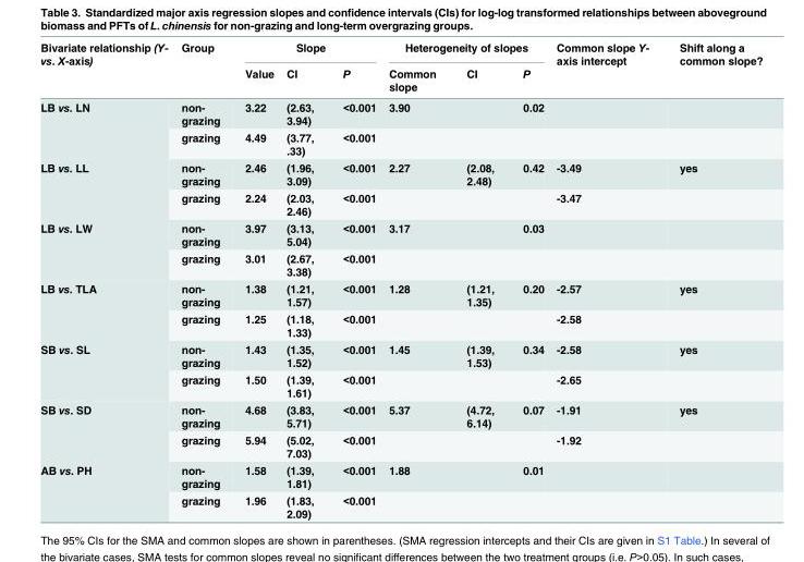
<table><thead><tr><td rowspan="2">Bivariate relationship (Y- vs. X-axis)</td><td rowspan="2">Group</td><td colspan="3">Slope</td><td colspan="3">Heterogeneity of slopes</td><td rowspan="2">Common slope Y- axis intercept</td><td rowspan="2">Shift along a common slope?</td></tr><tr><td>Value</td><td>CI</td><td>P</td><td>Common slope</td><td>CI</td><td>P</td></tr></thead><tbody><tr><td rowspan="2">LB vs. LN</td><td>non- grazing</td><td>3.22</td><td>(2.63, 3.94)</td><td>&lt;0.001</td><td>3.90</td><td></td><td>0.02</td><td></td><td></td></tr><tr><td>grazing</td><td>4.49</td><td>(3.77, .33)</td><td>&lt;0.001</td><td></td><td></td><td></td><td></td><td></td></tr><tr><td rowspan="2">LB vs. LL</td><td>non- grazing</td><td>2.46</td><td>(1.96, 3.09)</td><td>&lt;0.001</td><td>2.27</td><td>(2.08, 2.48)</td><td>0.42</td><td>-3.49</td><td>yes</td></tr><tr><td>grazing</td><td>2.24</td><td>(2.03, 2.46)</td><td>&lt;0.001</td><td></td><td></td><td></td><td>-3.47</td><td></td></tr><tr><td rowspan="2">LB vs. LW</td><td>non- grazing</td><td>3.97</td><td>(3.13, 5.04)</td><td>&lt;0.001</td><td>3.17</td><td></td><td>0.03</td><td></td><td></td></tr><tr><td>grazing</td><td>3.01</td><td>(2.67, 3.38)</td><td>&lt;0.001</td><td></td><td></td><td></td><td></td><td></td></tr><tr><td rowspan="2">LB vs. TLA</td><td>non- grazing</td><td>1.38</td><td>(1.21, 1.57)</td><td>&lt;0.001</td><td>1.28</td><td>(1.21, 1.35)</td><td>0.20</td><td>-2.57</td><td>yes</td></tr><tr><td>grazing</td><td>1.25</td><td>(1.18, 1.33)</td><td>&lt;0.001</td><td></td><td></td><td></td><td>-2.58</td><td></td></tr><tr><td rowspan="2">SB vs. SL</td><td>non- grazing</td><td>1.43</td><td>(1.35, 1.52)</td><td>&lt;0.001</td><td>1.45</td><td>(1.39, 1.53)</td><td>0.34</td><td>-2.58</td><td>yes</td></tr><tr><td>grazing</td><td>1.50</td><td>(1.39, 1.61)</td><td>&lt;0.001</td><td></td><td></td><td></td><td>-2.65</td><td></td></tr><tr><td rowspan="2">SB vs. SD</td><td>non- grazing</td><td>4.68</td><td>(3.83, 5.71)</td><td>&lt;0.001</td><td>5.37</td><td>(4.72, 6.14)</td><td>0.07</td><td>-1.91</td><td>yes</td></tr><tr><td>grazing</td><td>5.94</td><td>(5.02, 7.03)</td><td>&lt;0.001</td><td></td><td></td><td></td><td>-1.92</td><td></td></tr><tr><td rowspan="2">AB vs. PH</td><td>non- grazing</td><td>1.58</td><td>(1.39, 1.81)</td><td>&lt;0.001</td><td>1.88</td><td></td><td>0.01</td><td></td><td></td></tr><tr><td>grazing</td><td>1.96</td><td>(1.83, 2.09)</td><td>&lt;0.001</td><td></td><td></td><td></td><td></td><td></td></tr></tbody></table>